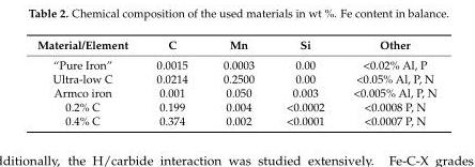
<table><thead><tr><td>Material/Element</td><td>C</td><td>Mn</td><td>Si</td><td>Other</td></tr></thead><tbody><tr><td>“Pure Iron”</td><td>0.0015</td><td>0.0003</td><td>0.00</td><td>&lt;0.02% Al, P</td></tr><tr><td>Ultra-low C</td><td>0.0214</td><td>0.2500</td><td>0.00</td><td>&lt;0.05% Al, P, N</td></tr><tr><td>Armco iron</td><td>0.001</td><td>0.050</td><td>0.003</td><td>&lt;0.005% Al, P, N</td></tr><tr><td>0.2% C</td><td>0.199</td><td>0.004</td><td>&lt;0.0002</td><td>&lt;0.0008 P, N</td></tr><tr><td>0.4% C</td><td>0.374</td><td>0.002</td><td>&lt;0.0001</td><td>&lt;0.0007 P, N</td></tr></tbody></table>